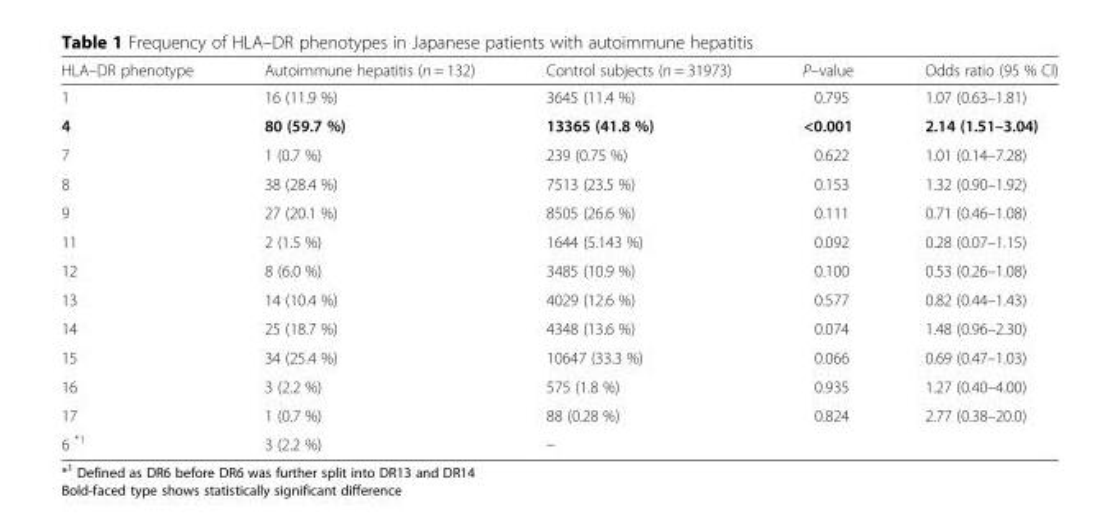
<table><thead><tr><td>HLA–DR phenotype</td><td>Autoimmune hepatitis (n = 132)</td><td>Control subjects (n = 31973)</td><td>P–value</td><td>Odds ratio (95 % Cl)</td></tr></thead><tbody><tr><td>1</td><td>16 (11.9 %)</td><td>3645 (11.4 %)</td><td>0.795</td><td>1.07 (0.63–1.81)</td></tr><tr><td>4</td><td>80 (59.7 %)</td><td>13365 (41.8 %)</td><td>&lt;0.001</td><td>2.14 (1.51–3.04)</td></tr><tr><td>7</td><td>1 (0.7 %)</td><td>239 (0.75 %)</td><td>0.622</td><td>1.01 (0.14–7.28)</td></tr><tr><td>8</td><td>38 (28.4 %)</td><td>7513 (23.5 %)</td><td>0.153</td><td>1.32 (0.90–1.92)</td></tr><tr><td>9</td><td>27 (20.1 %)</td><td>8505 (26.6 %)</td><td>0.111</td><td>0.71 (0.46–1.08)</td></tr><tr><td>11</td><td>2 (1.5 %)</td><td>1644 (5.143 %)</td><td>0.092</td><td>0.28 (0.07–1.15)</td></tr><tr><td>12</td><td>8 (6.0 %)</td><td>3485 (10.9 %)</td><td>0.100</td><td>0.53 (0.26–1.08)</td></tr><tr><td>13</td><td>14 (10.4 %)</td><td>4029 (12.6 %)</td><td>0.577</td><td>0.82 (0.44–1.43)</td></tr><tr><td>14</td><td>25 (18.7 %)</td><td>4348 (13.6 %)</td><td>0.074</td><td>1.48 (0.96–2.30)</td></tr><tr><td>15</td><td>34 (25.4 %)</td><td>10647 (33.3 %)</td><td>0.066</td><td>0.69 (0.47–1.03)</td></tr><tr><td>16</td><td>3 (2.2 %)</td><td>575 (1.8 %)</td><td>0.935</td><td>1.27 (0.40–4.00)</td></tr><tr><td>17</td><td>1 (0.7 %)</td><td>88 (0.28 %)</td><td>0.824</td><td>2.77 (0.38–20.0)</td></tr><tr><td>6 <sup>*1</sup></td><td>3 (2.2 %)</td><td>–</td><td></td><td></td></tr></tbody></table>